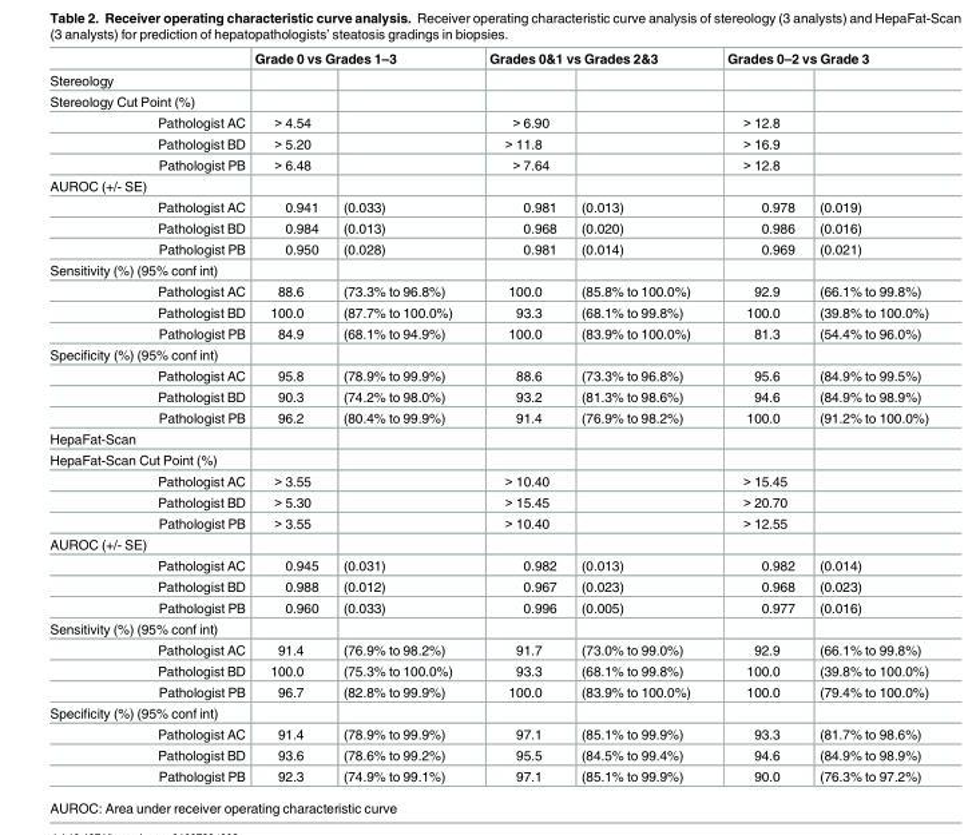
<table><thead><tr><td rowspan="2">Stereology</td><td colspan="2">Grade 0 vs Grades 1–3</td><td colspan="2">Grades 0&amp;1 vs Grades 2&amp;3</td><td colspan="2">Grades 0–2 vs Grade 3</td></tr><tr><td></td><td></td><td></td><td></td><td></td><td></td></tr></thead><tbody><tr><td colspan="7">Stereology Cut Point (%)</td></tr><tr><td>Pathologist AC</td><td>&gt; 4.54</td><td></td><td>&gt; 6.90</td><td></td><td>&gt; 12.8</td><td></td></tr><tr><td>Pathologist BD</td><td>&gt; 5.20</td><td></td><td>&gt; 11.8</td><td></td><td>&gt; 16.9</td><td></td></tr><tr><td>Pathologist PB</td><td>&gt; 6.48</td><td></td><td>&gt; 7.64</td><td></td><td>&gt; 12.8</td><td></td></tr><tr><td colspan="7">AUROC (+/- SE)</td></tr><tr><td>Pathologist AC</td><td>0.941</td><td>(0.033)</td><td>0.981</td><td>(0.013)</td><td>0.978</td><td>(0.019)</td></tr><tr><td>Pathologist BD</td><td>0.984</td><td>(0.013)</td><td>0.968</td><td>(0.020)</td><td>0.986</td><td>(0.016)</td></tr><tr><td>Pathologist PB</td><td>0.950</td><td>(0.028)</td><td>0.981</td><td>(0.014)</td><td>0.969</td><td>(0.021)</td></tr><tr><td colspan="7">Sensitivity (%) (95% conf int)</td></tr><tr><td>Pathologist AC</td><td>88.6</td><td>(73.3% to 96.8%)</td><td>100.0</td><td>(85.8% to 100.0%)</td><td>92.9</td><td>(66.1% to 99.8%)</td></tr><tr><td>Pathologist BD</td><td>100.0</td><td>(87.7% to 100.0%)</td><td>93.3</td><td>(68.1% to 99.8%)</td><td>100.0</td><td>(39.8% to 100.0%)</td></tr><tr><td>Pathologist PB</td><td>84.9</td><td>(68.1% to 94.9%)</td><td>100.0</td><td>(83.9% to 100.0%)</td><td>81.3</td><td>(54.4% to 96.0%)</td></tr><tr><td colspan="7">Specificity (%) (95% conf int)</td></tr><tr><td>Pathologist AC</td><td>95.8</td><td>(78.9% to 99.9%)</td><td>88.6</td><td>(73.3% to 96.8%)</td><td>95.6</td><td>(84.9% to 99.5%)</td></tr><tr><td>Pathologist BD</td><td>90.3</td><td>(74.2% to 98.0%)</td><td>93.2</td><td>(81.3% to 98.6%)</td><td>94.6</td><td>(84.9% to 98.9%)</td></tr><tr><td>Pathologist PB</td><td>96.2</td><td>(80.4% to 99.9%)</td><td>91.4</td><td>(76.9% to 98.2%)</td><td>100.0</td><td>(91.2% to 100.0%)</td></tr><tr><td colspan="7">HepaFat-Scan</td></tr><tr><td colspan="7">HepaFat-Scan Cut Point (%)</td></tr><tr><td>Pathologist AC</td><td>&gt; 3.55</td><td></td><td>&gt; 10.40</td><td></td><td>&gt; 15.45</td><td></td></tr><tr><td>Pathologist BD</td><td>&gt; 5.30</td><td></td><td>&gt; 15.45</td><td></td><td>&gt; 20.70</td><td></td></tr><tr><td>Pathologist PB</td><td>&gt; 3.55</td><td></td><td>&gt; 10.40</td><td></td><td>&gt; 12.55</td><td></td></tr><tr><td colspan="7">AUROC (+/- SE)</td></tr><tr><td>Pathologist AC</td><td>0.945</td><td>(0.031)</td><td>0.982</td><td>(0.013)</td><td>0.982</td><td>(0.014)</td></tr><tr><td>Pathologist BD</td><td>0.988</td><td>(0.012)</td><td>0.967</td><td>(0.023)</td><td>0.968</td><td>(0.023)</td></tr><tr><td>Pathologist PB</td><td>0.960</td><td>(0.033)</td><td>0.996</td><td>(0.005)</td><td>0.977</td><td>(0.016)</td></tr><tr><td colspan="7">Sensitivity (%) (95% conf int)</td></tr><tr><td>Pathologist AC</td><td>91.4</td><td>(76.9% to 98.2%)</td><td>91.7</td><td>(73.0% to 99.0%)</td><td>92.9</td><td>(66.1% to 99.8%)</td></tr><tr><td>Pathologist BD</td><td>100.0</td><td>(75.3% to 100.0%)</td><td>93.3</td><td>(68.1% to 99.8%)</td><td>100.0</td><td>(39.8% to 100.0%)</td></tr><tr><td>Pathologist PB</td><td>96.7</td><td>(82.8% to 99.9%)</td><td>100.0</td><td>(83.9% to 100.0%)</td><td>100.0</td><td>(79.4% to 100.0%)</td></tr><tr><td colspan="7">Specificity (%) (95% conf int)</td></tr><tr><td>Pathologist AC</td><td>91.4</td><td>(78.9% to 99.9%)</td><td>97.1</td><td>(85.1% to 99.9%)</td><td>93.3</td><td>(81.7% to 98.6%)</td></tr><tr><td>Pathologist BD</td><td>93.6</td><td>(78.6% to 99.2%)</td><td>95.5</td><td>(84.5% to 99.4%)</td><td>94.6</td><td>(84.9% to 98.9%)</td></tr><tr><td>Pathologist PB</td><td>92.3</td><td>(74.9% to 99.1%)</td><td>97.1</td><td>(85.1% to 99.9%)</td><td>90.0</td><td>(76.3% to 97.2%)</td></tr></tbody></table>